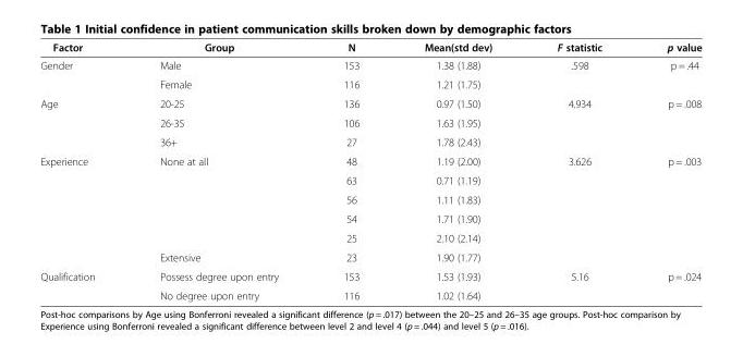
<table><thead><tr><td>Factor</td><td>Group</td><td>N</td><td>Mean(std dev)</td><td>F statistic</td><td>p value</td></tr></thead><tbody><tr><td rowspan="2">Gender</td><td>Male</td><td>153</td><td>1.38 (1.88)</td><td>.598</td><td>p = .44</td></tr><tr><td>Female</td><td>116</td><td>1.21 (1.75)</td><td></td><td></td></tr><tr><td rowspan="3">Age</td><td>20-25</td><td>136</td><td>0.97 (1.50)</td><td>4.934</td><td>p = .008</td></tr><tr><td>26-35</td><td>106</td><td>1.63 (1.95)</td><td></td><td></td></tr><tr><td>36+</td><td>27</td><td>1.78 (2.43)</td><td></td><td></td></tr><tr><td rowspan="6">Experience</td><td>None at all</td><td>48</td><td>1.19 (2.00)</td><td>3.626</td><td>p = .003</td></tr><tr><td></td><td>63</td><td>0.71 (1.19)</td><td></td><td></td></tr><tr><td></td><td>56</td><td>1.11 (1.83)</td><td></td><td></td></tr><tr><td></td><td>54</td><td>1.71 (1.90)</td><td></td><td></td></tr><tr><td></td><td>25</td><td>2.10 (2.14)</td><td></td><td></td></tr><tr><td>Extensive</td><td>23</td><td>1.90 (1.77)</td><td></td><td></td></tr><tr><td rowspan="2">Qualification</td><td>Possess degree upon entry</td><td>153</td><td>1.53 (1.93)</td><td>5.16</td><td>p = .024</td></tr><tr><td>No degree upon entry</td><td>116</td><td>1.02 (1.64)</td><td></td><td></td></tr></tbody></table>